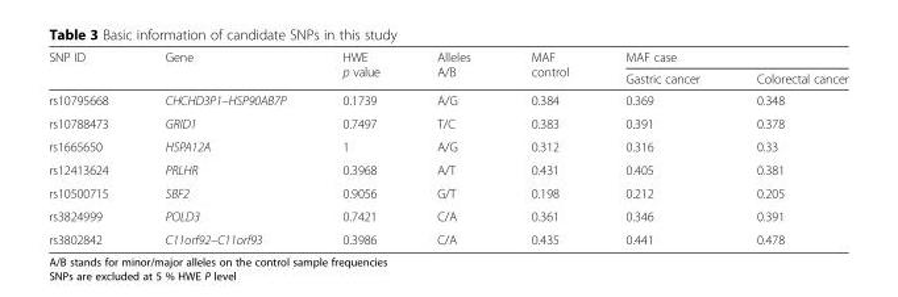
<table><thead><tr><td rowspan="2">SNP ID</td><td rowspan="2">Gene</td><td rowspan="2">HWE p value</td><td rowspan="2">Alleles A/B</td><td rowspan="2">MAF control</td><td colspan="2">MAF case</td></tr><tr><td>Gastric cancer</td><td>Colorectal cancer</td></tr></thead><tbody><tr><td>rs10795668</td><td>CHCHD3P1–HSP90AB7P</td><td>0.1739</td><td>A/G</td><td>0.384</td><td>0.369</td><td>0.348</td></tr><tr><td>rs10788473</td><td>GRID1</td><td>0.7497</td><td>T/C</td><td>0.383</td><td>0.391</td><td>0.378</td></tr><tr><td>rs1665650</td><td>HSPA12A</td><td>1</td><td>A/G</td><td>0.312</td><td>0.316</td><td>0.33</td></tr><tr><td>rs12413624</td><td>PRLHR</td><td>0.3968</td><td>A/T</td><td>0.431</td><td>0.405</td><td>0.381</td></tr><tr><td>rs10500715</td><td>SBF2</td><td>0.9056</td><td>G/T</td><td>0.198</td><td>0.212</td><td>0.205</td></tr><tr><td>rs3824999</td><td>POLD3</td><td>0.7421</td><td>C/A</td><td>0.361</td><td>0.346</td><td>0.391</td></tr><tr><td>rs3802842</td><td>C11orf92–C11orf93</td><td>0.3986</td><td>C/A</td><td>0.435</td><td>0.441</td><td>0.478</td></tr></tbody></table>